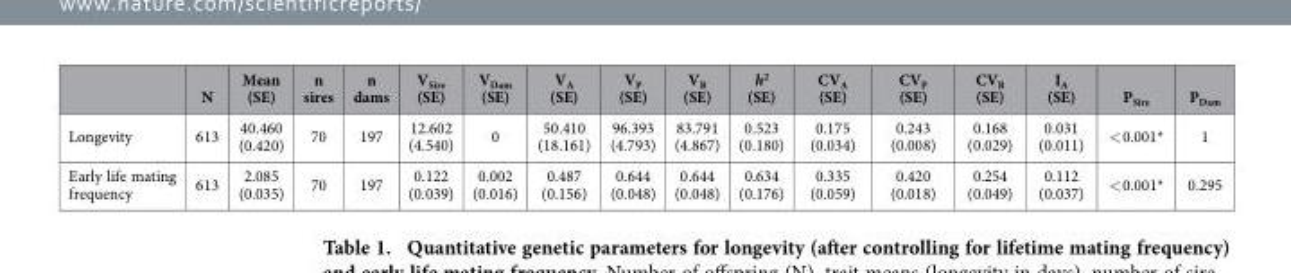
<table><thead><tr><td></td><td>N</td><td>Mean (SE)</td><td>n sires</td><td>n dams</td><td>V<sub>Sire</sub> (SE)</td><td>V<sub>Dam</sub> (SE)</td><td>V<sub>A</sub> (SE)</td><td>V<sub>P</sub> (SE)</td><td>V<sub>R</sub> (SE)</td><td>h<sup>2</sup> (SE)</td><td>CV<sub>A</sub> (SE)</td><td>CV<sub>P</sub> (SE)</td><td>CV<sub>R</sub> (SE)</td><td>I<sub>A</sub> (SE)</td><td>P<sub>Sire</sub></td><td>P<sub>Dam</sub></td></tr></thead><tbody><tr><td>Longevity</td><td>613</td><td>40.460 (0.420)</td><td>70</td><td>197</td><td>12.602 (4.540)</td><td>0</td><td>50.410 (18.161)</td><td>96.393 (4.793)</td><td>83.791 (4.867)</td><td>0.523 (0.180)</td><td>0.175 (0.034)</td><td>0.243 (0.008)</td><td>0.168 (0.029)</td><td>0.031 (0.011)</td><td>&lt; 0.001*</td><td>1</td></tr><tr><td>Early life mating frequency</td><td>613</td><td>2.085 (0.035)</td><td>70</td><td>197</td><td>0.122 (0.039)</td><td>0.002 (0.016)</td><td>0.487 (0.156)</td><td>0.644 (0.048)</td><td>0.644 (0.048)</td><td>0.634 (0.176)</td><td>0.335 (0.059)</td><td>0.420 (0.018)</td><td>0.254 (0.049)</td><td>0.112 (0.037)</td><td>&lt; 0.001*</td><td>0.295</td></tr></tbody></table>